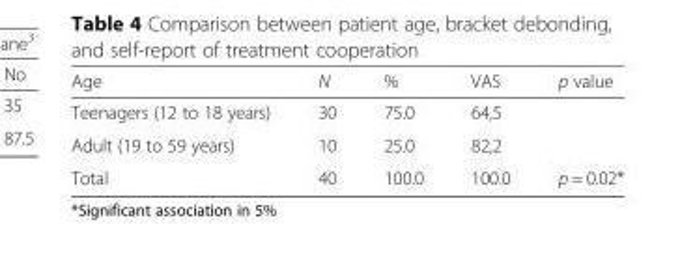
<table><thead><tr><td>Age</td><td>N</td><td>%</td><td>VAS</td><td>p value</td></tr></thead><tbody><tr><td>Teenagers (12 to 18 years)</td><td>30</td><td>75.0</td><td>64,5</td><td></td></tr><tr><td>Adult (19 to 59 years)</td><td>10</td><td>25.0</td><td>82,2</td><td></td></tr><tr><td>Total</td><td>40</td><td>100.0</td><td>100.0</td><td>p = 0.02*</td></tr></tbody></table>